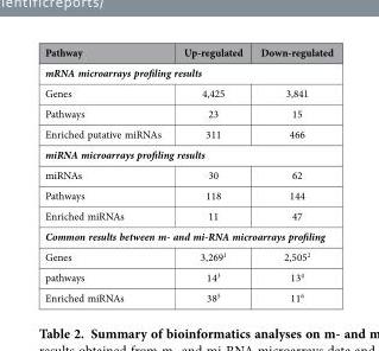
<table><thead><tr><td>Pathway</td><td>Up-regulated</td><td>Down-regulated</td></tr></thead><tbody><tr><td colspan="3">mRNA microarrays profiling results</td></tr><tr><td>Genes</td><td>4,425</td><td>3,841</td></tr><tr><td>Pathways</td><td>23</td><td>15</td></tr><tr><td>Enriched putative miRNAs</td><td>311</td><td>466</td></tr><tr><td colspan="3">miRNA microarrays profiling results</td></tr><tr><td>miRNAs</td><td>30</td><td>62</td></tr><tr><td>Pathways</td><td>118</td><td>144</td></tr><tr><td>Enriched miRNAs</td><td>11</td><td>47</td></tr><tr><td colspan="3">Common results between m- and mi-RNA microarrays profiling</td></tr><tr><td>Genes</td><td>3,269<sup>1</sup></td><td>2,505<sup>2</sup></td></tr><tr><td>pathways</td><td>14<sup>3</sup></td><td>13<sup>4</sup></td></tr><tr><td>Enriched miRNAs</td><td>38<sup>5</sup></td><td>11<sup>6</sup></td></tr></tbody></table>